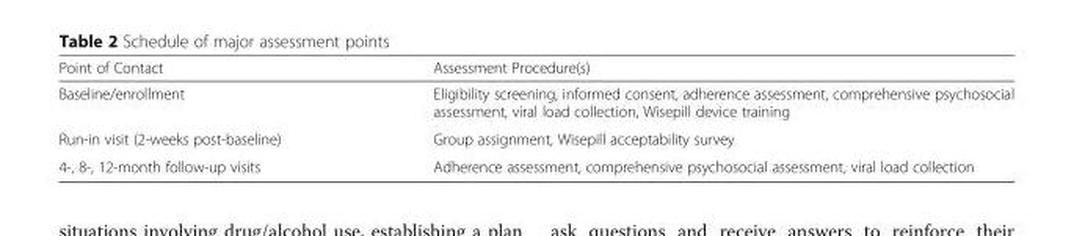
<table><thead><tr><td>Point of Contact</td><td>Assessment Procedure(s)</td></tr></thead><tbody><tr><td>Baseline/enrollment</td><td>Eligibility screening, informed consent, adherence assessment, comprehensive psychosocial assessment, viral load collection, Wisepill device training</td></tr><tr><td>Run-in visit (2-weeks post-baseline)</td><td>Group assignment, Wisepill acceptability survey</td></tr><tr><td>4-, 8-, 12-month follow-up visits</td><td>Adherence assessment, comprehensive psychosocial assessment, viral load collection</td></tr></tbody></table>